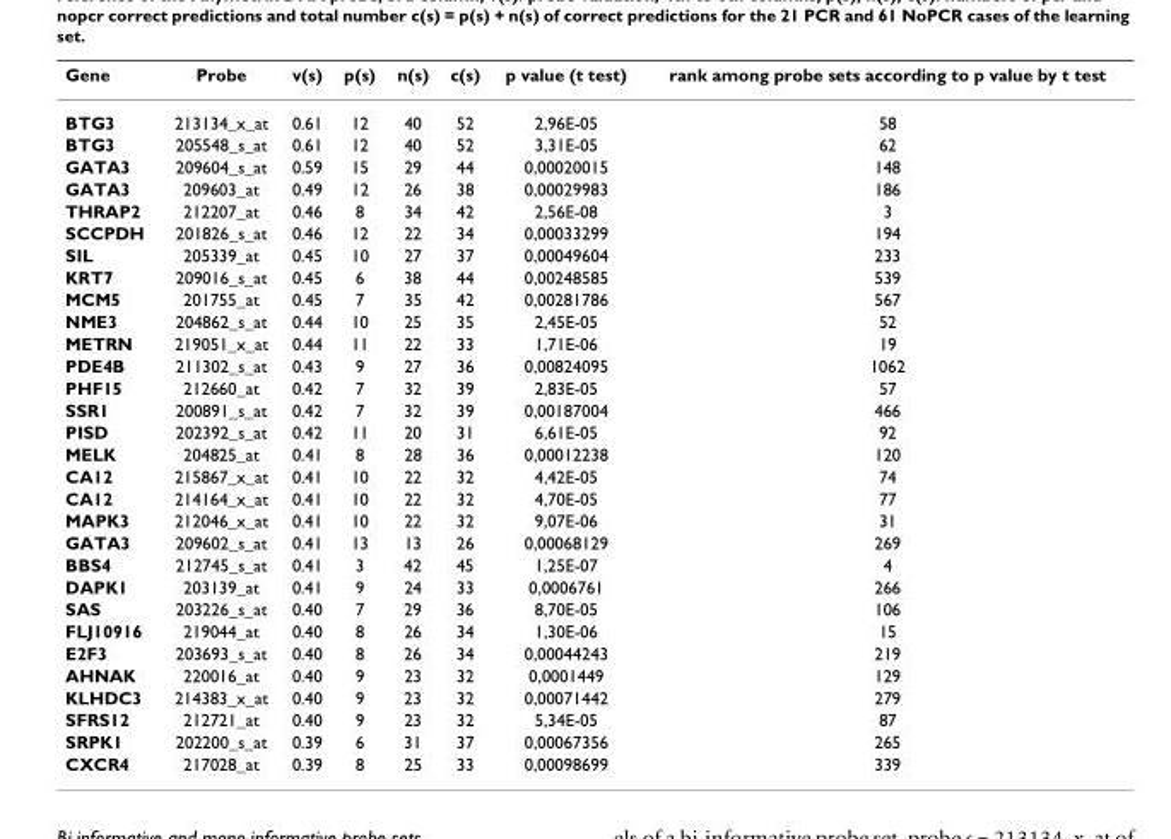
<table><thead><tr><td>Gene</td><td>Probe</td><td>v(s)</td><td>p(s)</td><td>n(s)</td><td>c(s)</td><td>p value (t test)</td><td>rank among probe sets according to p value by t test</td></tr></thead><tbody><tr><td>BTG3</td><td>213134_x_at</td><td>0.61</td><td>12</td><td>40</td><td>52</td><td>2,96E-05</td><td>58</td></tr><tr><td>BTG3</td><td>205548_s_at</td><td>0.61</td><td>12</td><td>40</td><td>52</td><td>3,31E-05</td><td>62</td></tr><tr><td>GATA3</td><td>209604_s_at</td><td>0.59</td><td>15</td><td>29</td><td>44</td><td>0,00020015</td><td>148</td></tr><tr><td>GATA3</td><td>209603_at</td><td>0.49</td><td>12</td><td>26</td><td>38</td><td>0,00029983</td><td>186</td></tr><tr><td>THRAP2</td><td>212207_at</td><td>0.46</td><td>8</td><td>34</td><td>42</td><td>2,56E-08</td><td>3</td></tr><tr><td>SCCPDH</td><td>201826_s_at</td><td>0.46</td><td>12</td><td>22</td><td>34</td><td>0,00033299</td><td>194</td></tr><tr><td>SIL</td><td>205339_at</td><td>0.45</td><td>10</td><td>27</td><td>37</td><td>0,00049604</td><td>233</td></tr><tr><td>KRT7</td><td>209016_s_at</td><td>0.45</td><td>6</td><td>38</td><td>44</td><td>0,00248585</td><td>539</td></tr><tr><td>MCM5</td><td>201755_at</td><td>0.45</td><td>7</td><td>35</td><td>42</td><td>0,00281786</td><td>567</td></tr><tr><td>NME3</td><td>204862_s_at</td><td>0.44</td><td>10</td><td>25</td><td>35</td><td>2,45E-05</td><td>52</td></tr><tr><td>METRN</td><td>219051_x_at</td><td>0.44</td><td>11</td><td>22</td><td>33</td><td>1,71E-06</td><td>19</td></tr><tr><td>PDE4B</td><td>211302_s_at</td><td>0.43</td><td>9</td><td>27</td><td>36</td><td>0,00824095</td><td>1062</td></tr><tr><td>PHF15</td><td>212660_at</td><td>0.42</td><td>7</td><td>32</td><td>39</td><td>2,83E-05</td><td>57</td></tr><tr><td>SSR1</td><td>200891_s_at</td><td>0.42</td><td>7</td><td>32</td><td>39</td><td>0,00187004</td><td>466</td></tr><tr><td>PISD</td><td>202392_s_at</td><td>0.42</td><td>11</td><td>20</td><td>31</td><td>6,61E-05</td><td>92</td></tr><tr><td>MELK</td><td>204825_at</td><td>0.41</td><td>8</td><td>28</td><td>36</td><td>0,00012238</td><td>120</td></tr><tr><td>CA12</td><td>215867_x_at</td><td>0.41</td><td>10</td><td>22</td><td>32</td><td>4,42E-05</td><td>74</td></tr><tr><td>CA12</td><td>214164_x_at</td><td>0.41</td><td>10</td><td>22</td><td>32</td><td>4,70E-05</td><td>77</td></tr><tr><td>MAPK3</td><td>212046_x_at</td><td>0.41</td><td>10</td><td>22</td><td>32</td><td>9,07E-06</td><td>31</td></tr><tr><td>GATA3</td><td>209602_s_at</td><td>0.41</td><td>13</td><td>13</td><td>26</td><td>0,00068129</td><td>269</td></tr><tr><td>BBS4</td><td>212745_s_at</td><td>0.41</td><td>3</td><td>42</td><td>45</td><td>1,25E-07</td><td>4</td></tr><tr><td>DAPK1</td><td>203139_at</td><td>0.41</td><td>9</td><td>24</td><td>33</td><td>0,0006761</td><td>266</td></tr><tr><td>SAS</td><td>203226_s_at</td><td>0.40</td><td>7</td><td>29</td><td>36</td><td>8,70E-05</td><td>106</td></tr><tr><td>FLJ10916</td><td>219044_at</td><td>0.40</td><td>8</td><td>26</td><td>34</td><td>1,30E-06</td><td>15</td></tr><tr><td>E2F3</td><td>203693_s_at</td><td>0.40</td><td>8</td><td>26</td><td>34</td><td>0,00044243</td><td>219</td></tr><tr><td>AHNAK</td><td>220016_at</td><td>0.40</td><td>9</td><td>23</td><td>32</td><td>0,0001449</td><td>129</td></tr><tr><td>KLHDC3</td><td>214383_x_at</td><td>0.40</td><td>9</td><td>23</td><td>32</td><td>0,00071442</td><td>279</td></tr><tr><td>SFRS12</td><td>212721_at</td><td>0.40</td><td>9</td><td>23</td><td>32</td><td>5,34E-05</td><td>87</td></tr><tr><td>SRPK1</td><td>202200_s_at</td><td>0.39</td><td>6</td><td>31</td><td>37</td><td>0,00067356</td><td>265</td></tr><tr><td>CXCR4</td><td>217028_at</td><td>0.39</td><td>8</td><td>25</td><td>33</td><td>0,00098699</td><td>339</td></tr></tbody></table>